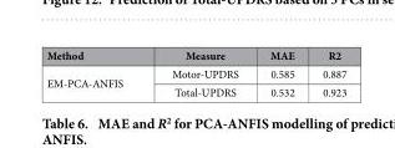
<table><thead><tr><td>Method</td><td>Measure</td><td>MAE</td><td>R2</td></tr></thead><tbody><tr><td rowspan="2">EM-PCA-ANFIS</td><td>Motor-UPDRS</td><td>0.585</td><td>0.887</td></tr><tr><td>Total-UPDRS</td><td>0.532</td><td>0.923</td></tr></tbody></table>